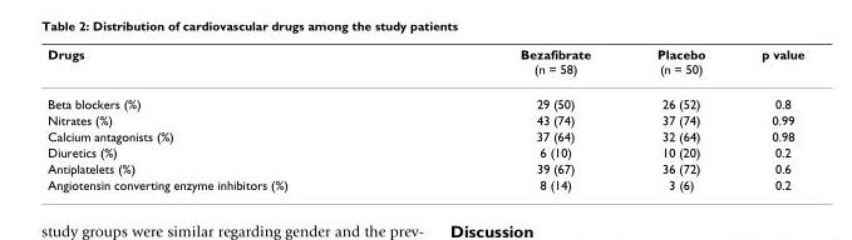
<table><thead><tr><td>Drugs</td><td>Bezafibrate (n = 58)</td><td>Placebo (n = 50)</td><td>p value</td></tr></thead><tbody><tr><td>Beta blockers (%)</td><td>29 (50)</td><td>26 (52)</td><td>0.8</td></tr><tr><td>Nitrates (%)</td><td>43 (74)</td><td>37 (74)</td><td>0.99</td></tr><tr><td>Calcium antagonists (%)</td><td>37 (64)</td><td>32 (64)</td><td>0.98</td></tr><tr><td>Diuretics (%)</td><td>6 (10)</td><td>10 (20)</td><td>0.2</td></tr><tr><td>Antiplatelets (%)</td><td>39 (67)</td><td>36 (72)</td><td>0.6</td></tr><tr><td>Angiotensin converting enzyme inhibitors (%)</td><td>8 (14)</td><td>3 (6)</td><td>0.2</td></tr></tbody></table>